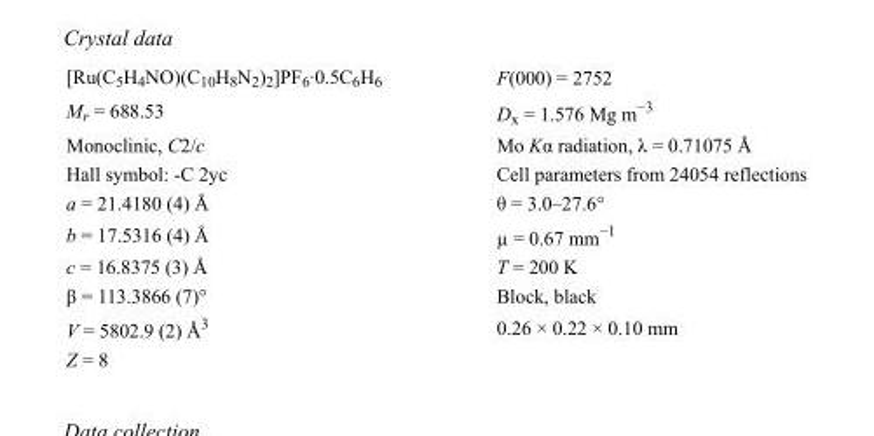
<table><tbody><tr><td>[Ru(C<sub>5</sub>H<sub>4</sub>NO)(C<sub>10</sub>H<sub>8</sub>N<sub>2</sub>)<sub>2</sub>]PF<sub>6</sub>·0.5C<sub>6</sub>H<sub>6</sub></td><td>F(000) = 2752</td></tr><tr><td>M<sub>r</sub> = 688.53</td><td>D<sub>x</sub> = 1.576 Mg m<sup>−3</sup></td></tr><tr><td>Monoclinic, C2/c</td><td>Mo Kα radiation, λ = 0.71075 Å</td></tr><tr><td>Hall symbol: -C 2yc</td><td>Cell parameters from 24054 reflections</td></tr><tr><td>a = 21.4180 (4) Å</td><td>θ = 3.0–27.6°</td></tr><tr><td>b = 17.5316 (4) Å</td><td>µ = 0.67 mm<sup>−1</sup></td></tr><tr><td>c = 16.8375 (3) Å</td><td>T = 200 K</td></tr><tr><td>β = 113.3866 (7)°</td><td>Block, black</td></tr><tr><td>V = 5802.9 (2) Å<sup>3</sup></td><td>0.26 × 0.22 × 0.10 mm</td></tr><tr><td>Z = 8</td><td></td></tr></tbody></table>